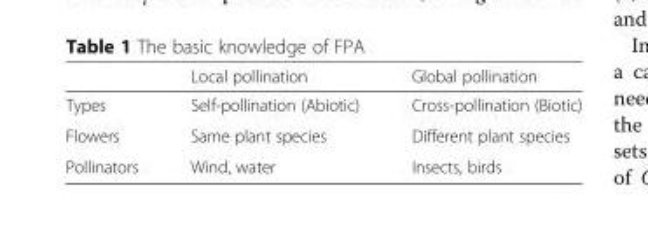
<table><thead><tr><td></td><td>Local pollination</td><td>Global pollination</td></tr></thead><tbody><tr><td>Types</td><td>Self-pollination (Abiotic)</td><td>Cross-pollination (Biotic)</td></tr><tr><td>Flowers</td><td>Same plant species</td><td>Different plant species</td></tr><tr><td>Pollinators</td><td>Wind, water</td><td>Insects, birds</td></tr></tbody></table>